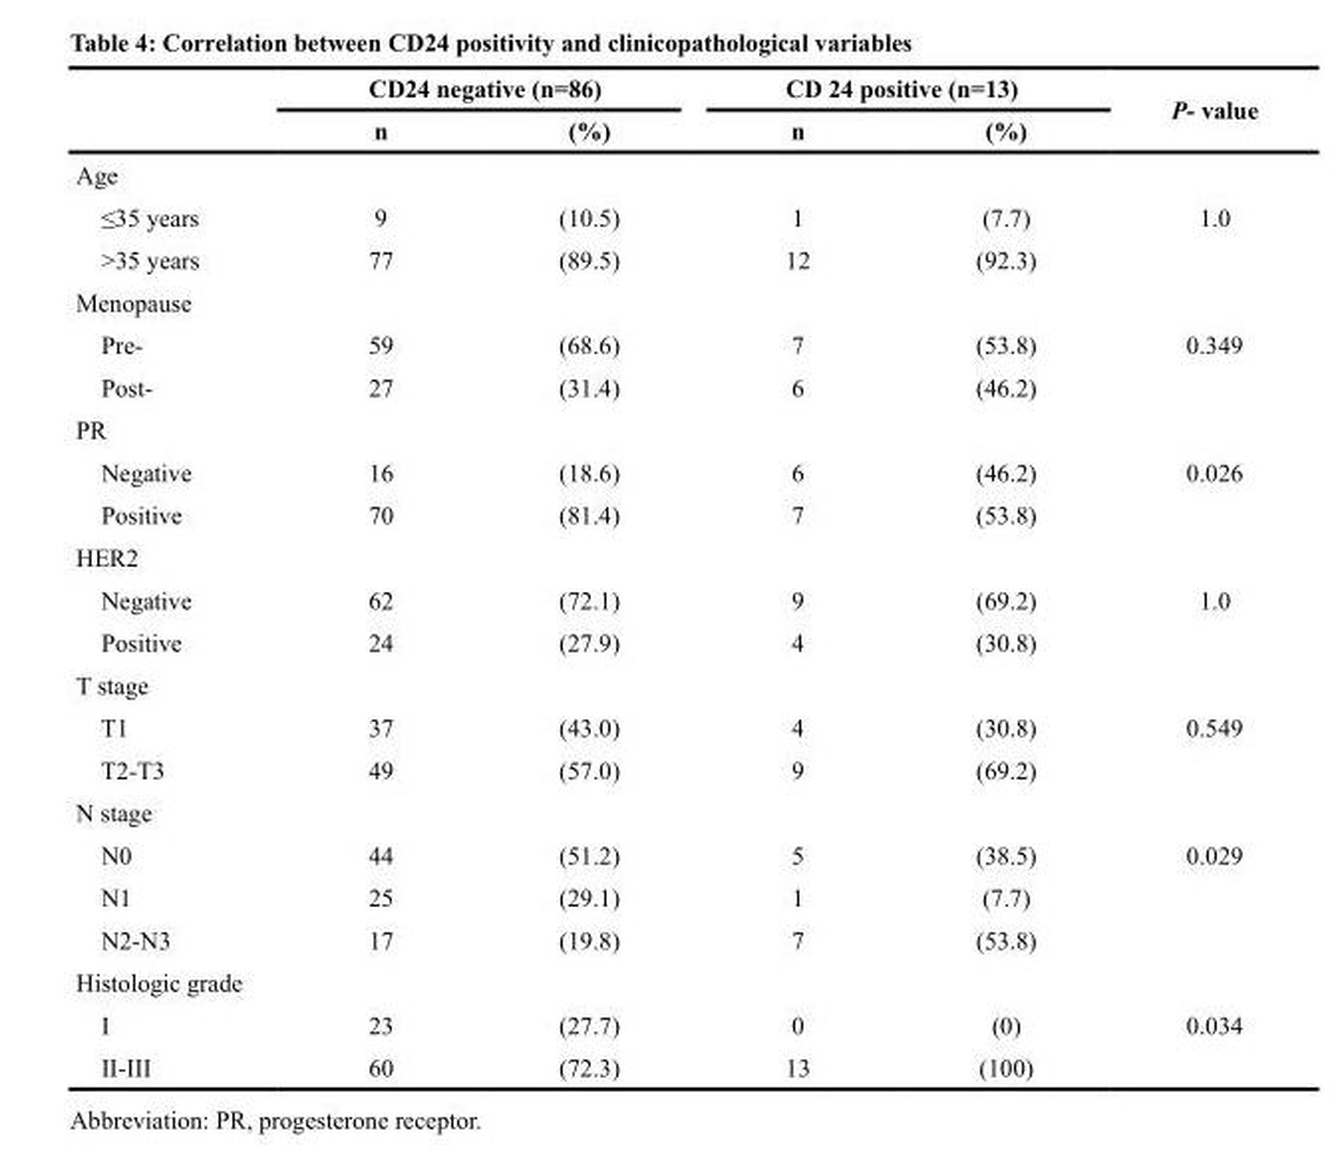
<table><thead><tr><td rowspan="2"></td><td colspan="2">CD24 negative (n=86)</td><td colspan="2">CD 24 positive (n=13)</td><td rowspan="2">P- value</td></tr><tr><td>n</td><td>(%)</td><td>n</td><td>(%)</td></tr></thead><tbody><tr><td colspan="6">Age</td></tr><tr><td>≤35 years</td><td>9</td><td>(10.5)</td><td>1</td><td>(7.7)</td><td>1.0</td></tr><tr><td>&gt;35 years</td><td>77</td><td>(89.5)</td><td>12</td><td>(92.3)</td><td></td></tr><tr><td colspan="6">Menopause</td></tr><tr><td>Pre-</td><td>59</td><td>(68.6)</td><td>7</td><td>(53.8)</td><td>0.349</td></tr><tr><td>Post-</td><td>27</td><td>(31.4)</td><td>6</td><td>(46.2)</td><td></td></tr><tr><td colspan="6">PR</td></tr><tr><td>Negative</td><td>16</td><td>(18.6)</td><td>6</td><td>(46.2)</td><td>0.026</td></tr><tr><td>Positive</td><td>70</td><td>(81.4)</td><td>7</td><td>(53.8)</td><td></td></tr><tr><td colspan="6">HER2</td></tr><tr><td>Negative</td><td>62</td><td>(72.1)</td><td>9</td><td>(69.2)</td><td>1.0</td></tr><tr><td>Positive</td><td>24</td><td>(27.9)</td><td>4</td><td>(30.8)</td><td></td></tr><tr><td colspan="6">T stage</td></tr><tr><td>T1</td><td>37</td><td>(43.0)</td><td>4</td><td>(30.8)</td><td>0.549</td></tr><tr><td>T2-T3</td><td>49</td><td>(57.0)</td><td>9</td><td>(69.2)</td><td></td></tr><tr><td colspan="6">N stage</td></tr><tr><td>N0</td><td>44</td><td>(51.2)</td><td>5</td><td>(38.5)</td><td>0.029</td></tr><tr><td>N1</td><td>25</td><td>(29.1)</td><td>1</td><td>(7.7)</td><td></td></tr><tr><td>N2-N3</td><td>17</td><td>(19.8)</td><td>7</td><td>(53.8)</td><td></td></tr><tr><td colspan="6">Histologic grade</td></tr><tr><td>I</td><td>23</td><td>(27.7)</td><td>0</td><td>(0)</td><td>0.034</td></tr><tr><td>II-III</td><td>60</td><td>(72.3)</td><td>13</td><td>(100)</td><td></td></tr></tbody></table>